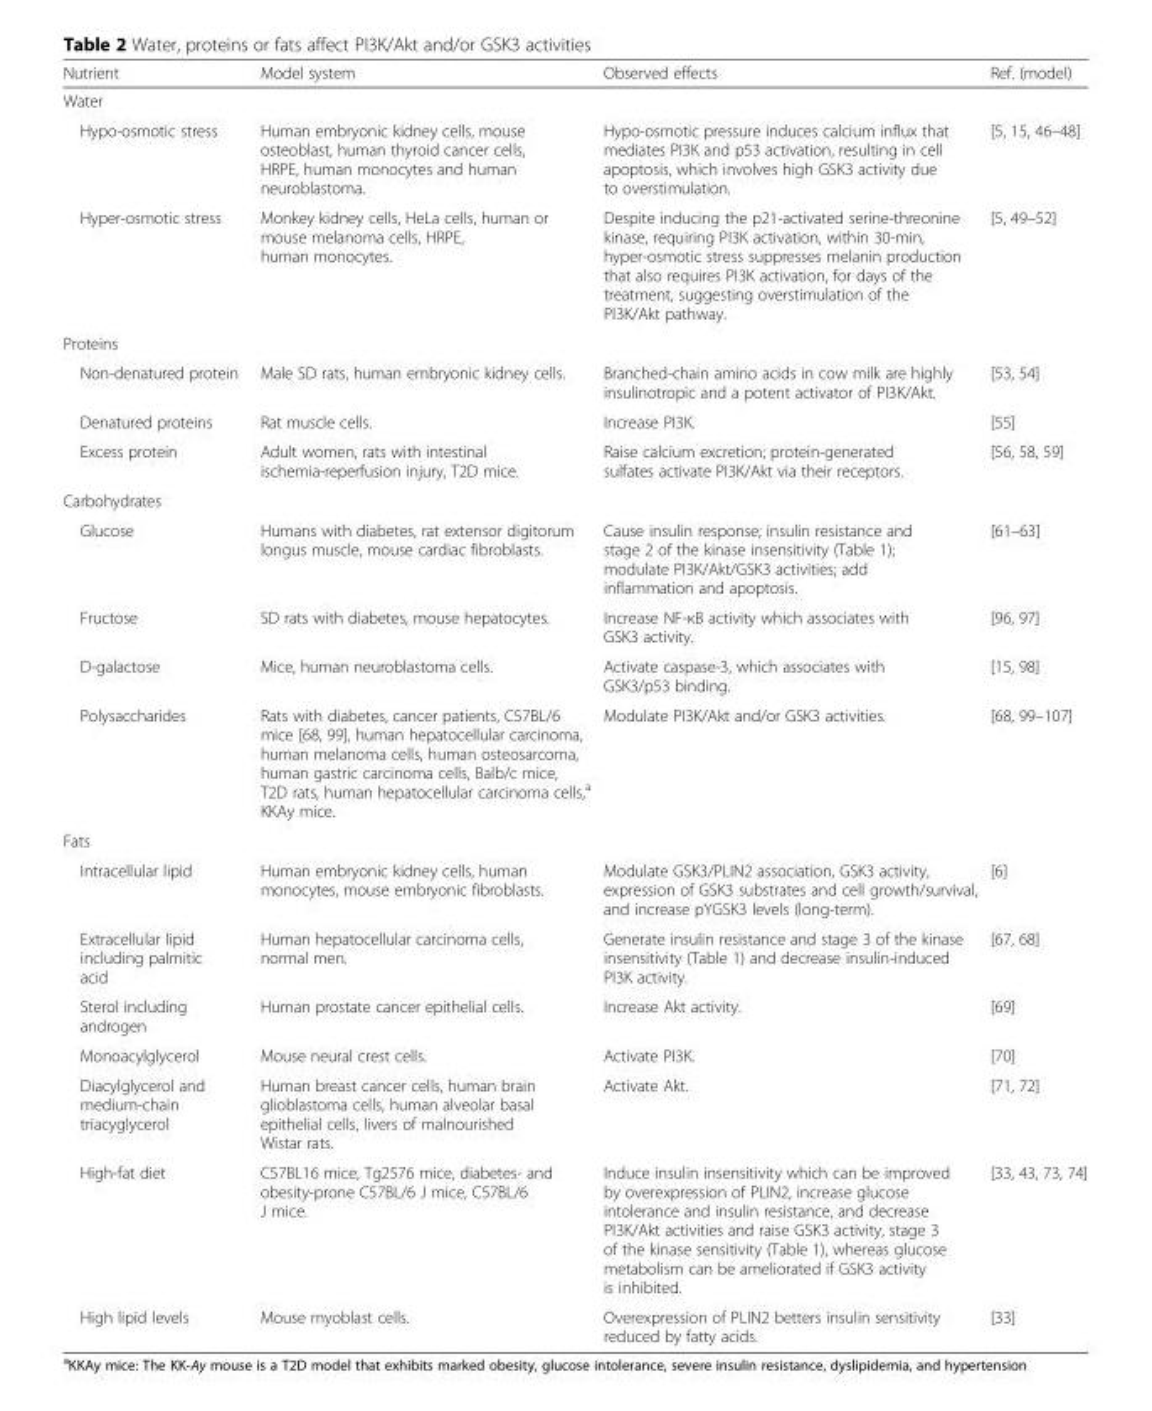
<table><thead><tr><td>Nutrient</td><td>Model system</td><td>Observed effects</td><td>Ref. (model)</td></tr></thead><tbody><tr><td colspan="4">Water</td></tr><tr><td>Hypo-osmotic stress</td><td>Human embryonic kidney cells, mouse osteoblast, human thyroid cancer cells, HRPE, human monocytes and human neuroblastoma.</td><td>Hypo-osmotic pressure induces calcium influx that mediates PI3K and p53 activation, resulting in cell apoptosis, which involves high GSK3 activity due to overstimulation.</td><td>[5, 15, 46–48]</td></tr><tr><td>Hyper-osmotic stress</td><td>Monkey kidney cells, HeLa cells, human or mouse melanoma cells, HRPE, human monocytes.</td><td>Despite inducing the p21-activated serine-threonine kinase, requiring PI3K activation, within 30-min, hyper-osmotic stress suppresses melanin production that also requires PI3K activation, for days of the treatment, suggesting overstimulation of the PI3K/Akt pathway.</td><td>[5, 49–52]</td></tr><tr><td colspan="4">Proteins</td></tr><tr><td>Non-denatured protein</td><td>Male SD rats, human embryonic kidney cells.</td><td>Branched-chain amino acids in cow milk are highly insulinotropic and a potent activator of PI3K/Akt.</td><td>[53, 54]</td></tr><tr><td>Denatured proteins</td><td>Rat muscle cells.</td><td>Increase PI3K.</td><td>[55]</td></tr><tr><td>Excess protein</td><td>Adult women, rats with intestinal ischemia-reperfusion injury, T2D mice.</td><td>Raise calcium excretion; protein-generated sulfates activate PI3K/Akt via their receptors.</td><td>[56, 58, 59]</td></tr><tr><td colspan="4">Carbohydrates</td></tr><tr><td>Glucose</td><td>Humans with diabetes, rat extensor digitorum longus muscle, mouse cardiac fibroblasts.</td><td>Cause insulin response; insulin resistance and stage 2 of the kinase insensitivity (Table 1); modulate PI3K/Akt/GSK3 activities; add inflammation and apoptosis.</td><td>[61–63]</td></tr><tr><td>Fructose</td><td>SD rats with diabetes, mouse hepatocytes.</td><td>Increase NF-κB activity which associates with GSK3 activity.</td><td>[96, 97]</td></tr><tr><td>D-galactose</td><td>Mice, human neuroblastoma cells.</td><td>Activate caspase-3, which associates with GSK3/p53 binding.</td><td>[15, 98]</td></tr><tr><td>Polysaccharides</td><td>Rats with diabetes, cancer patients, C57BL/6 mice [68, 99], human hepatocellular carcinoma, human melanoma cells, human osteosarcoma, human gastric carcinoma cells, Balb/c mice, T2D rats, human hepatocellular carcinoma cells,<sup>a</sup> KKAy mice.</td><td>Modulate PI3K/Akt and/or GSK3 activities.</td><td>[68, 99–107]</td></tr><tr><td colspan="4">Fats</td></tr><tr><td>Intracellular lipid</td><td>Human embryonic kidney cells, human monocytes, mouse embryonic fibroblasts.</td><td>Modulate GSK3/PLIN2 association, GSK3 activity, expression of GSK3 substrates and cell growth/survival, and increase pYGSK3 levels (long-term).</td><td>[6]</td></tr><tr><td>Extracellular lipid including palmitic acid</td><td>Human hepatocellular carcinoma cells, normal men.</td><td>Generate insulin resistance and stage 3 of the kinase insensitivity (Table 1) and decrease insulin-induced PI3K activity.</td><td>[67, 68]</td></tr><tr><td>Sterol including androgen</td><td>Human prostate cancer epithelial cells.</td><td>Increase Akt activity.</td><td>[69]</td></tr><tr><td>Monoacylglycerol</td><td>Mouse neural crest cells.</td><td>Activate PI3K.</td><td>[70]</td></tr><tr><td>Diacylglycerol and medium-chain triacyglycerol</td><td>Human breast cancer cells, human brain glioblastoma cells, human alveolar basal epithelial cells, livers of malnourished Wistar rats.</td><td>Activate Akt.</td><td>[71, 72]</td></tr><tr><td>High-fat diet</td><td>C57BL16 mice, Tg2576 mice, diabetes- and obesity-prone C57BL/6 J mice, C57BL/6 J mice.</td><td>Induce insulin insensitivity which can be improved by overexpression of PLIN2, increase glucose intolerance and insulin resistance, and decrease PI3K/Akt activities and raise GSK3 activity, stage 3 of the kinase sensitivity (Table 1), whereas glucose metabolism can be ameliorated if GSK3 activity is inhibited.</td><td>[33, 43, 73, 74]</td></tr><tr><td>High lipid levels</td><td>Mouse myoblast cells.</td><td>Overexpression of PLIN2 betters insulin sensitivity reduced by fatty acids.</td><td>[33]</td></tr></tbody></table>